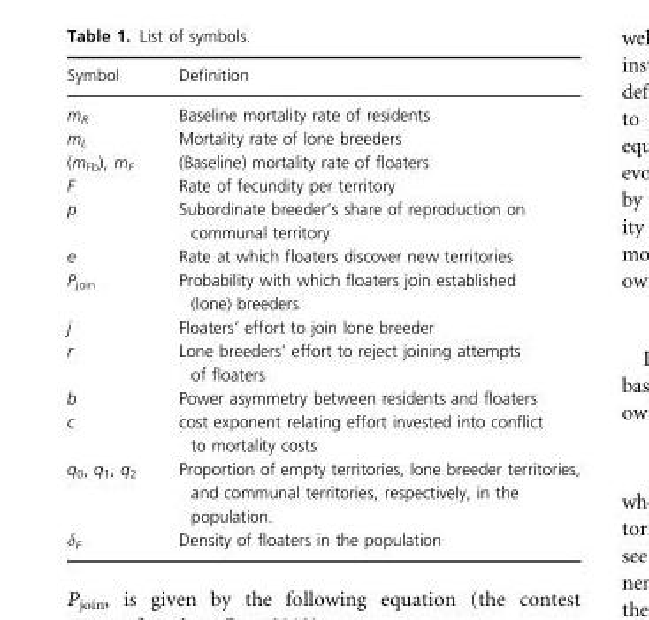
<table><thead><tr><td>Symbol</td><td>Definition</td></tr></thead><tbody><tr><td>m<sub>R</sub></td><td>Baseline mortality rate of residents</td></tr><tr><td>m<sub>L</sub></td><td>Mortality rate of lone breeders</td></tr><tr><td>(m<sub>Fb</sub>), m<sub>F</sub></td><td>(Baseline) mortality rate of floaters</td></tr><tr><td>F</td><td>Rate of fecundity per territory</td></tr><tr><td>p</td><td>Subordinate breeder’s share of reproduction on communal territory</td></tr><tr><td>e</td><td>Rate at which floaters discover new territories</td></tr><tr><td>P<sub>join</sub></td><td>Probability with which floaters join established (lone) breeders</td></tr><tr><td>j</td><td>Floaters’ effort to join lone breeder</td></tr><tr><td>r</td><td>Lone breeders’ effort to reject joining attempts of floaters</td></tr><tr><td>b</td><td>Power asymmetry between residents and floaters</td></tr><tr><td>c</td><td>cost exponent relating effort invested into conflict to mortality costs</td></tr><tr><td>q<sub>0</sub>, q<sub>1</sub>, q<sub>2</sub></td><td>Proportion of empty territories, lone breeder territories, and communal territories, respectively, in the population.</td></tr><tr><td>δ<sub>F</sub></td><td>Density of floaters in the population</td></tr></tbody></table>